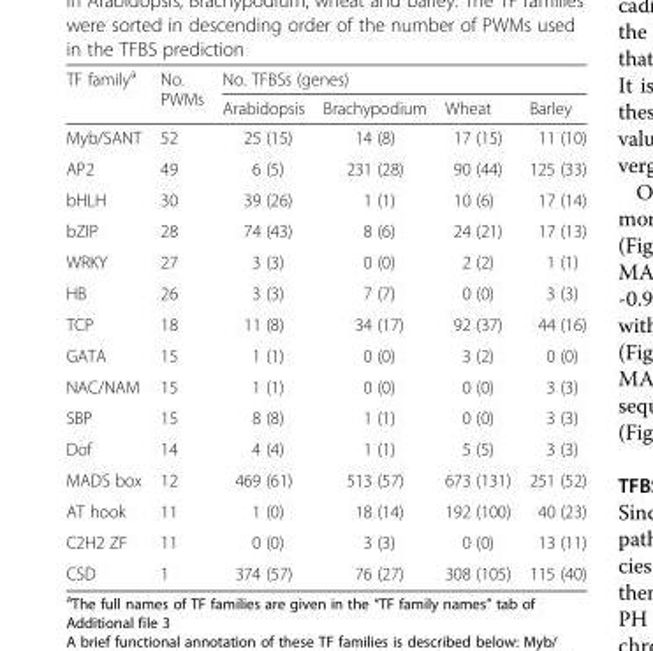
<table><thead><tr><td rowspan="2">TF family<sup>a</sup></td><td rowspan="2">No. PWMs</td><td colspan="4">No. TFBSs (genes)</td></tr><tr><td>Arabidopsis</td><td>Brachypodium</td><td>Wheat</td><td>Barley</td></tr></thead><tbody><tr><td>Myb/SANT</td><td>52</td><td>25 (15)</td><td>14 (8)</td><td>17 (15)</td><td>11 (10)</td></tr><tr><td>AP2</td><td>49</td><td>6 (5)</td><td>231 (28)</td><td>90 (44)</td><td>125 (33)</td></tr><tr><td>bHLH</td><td>30</td><td>39 (26)</td><td>1 (1)</td><td>10 (6)</td><td>17 (14)</td></tr><tr><td>bZIP</td><td>28</td><td>74 (43)</td><td>8 (6)</td><td>24 (21)</td><td>17 (13)</td></tr><tr><td>WRKY</td><td>27</td><td>3 (3)</td><td>0 (0)</td><td>2 (2)</td><td>1 (1)</td></tr><tr><td>HB</td><td>26</td><td>3 (3)</td><td>7 (7)</td><td>0 (0)</td><td>3 (3)</td></tr><tr><td>TCP</td><td>18</td><td>11 (8)</td><td>34 (17)</td><td>92 (37)</td><td>44 (16)</td></tr><tr><td>GATA</td><td>15</td><td>1 (1)</td><td>0 (0)</td><td>3 (2)</td><td>0 (0)</td></tr><tr><td>NAC/NAM</td><td>15</td><td>1 (1)</td><td>0 (0)</td><td>0 (0)</td><td>3 (3)</td></tr><tr><td>SBP</td><td>15</td><td>8 (8)</td><td>1 (1)</td><td>0 (0)</td><td>3 (3)</td></tr><tr><td>Dof</td><td>14</td><td>4 (4)</td><td>1 (1)</td><td>5 (5)</td><td>3 (3)</td></tr><tr><td>MADS box</td><td>12</td><td>469 (61)</td><td>513 (57)</td><td>673 (131)</td><td>251 (52)</td></tr><tr><td>AT hook</td><td>11</td><td>1 (0)</td><td>18 (14)</td><td>192 (100)</td><td>40 (23)</td></tr><tr><td>C2H2 ZF</td><td>11</td><td>0 (0)</td><td>3 (3)</td><td>0 (0)</td><td>13 (11)</td></tr><tr><td>CSD</td><td>1</td><td>374 (57)</td><td>76 (27)</td><td>308 (105)</td><td>115 (40)</td></tr></tbody></table>